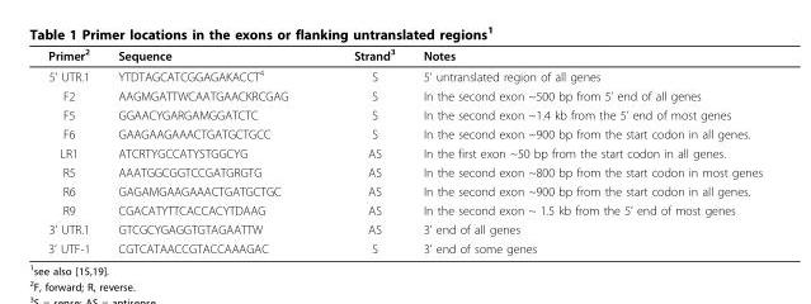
<table><thead><tr><td>Primer<sup>2</sup></td><td>Sequence</td><td>Strand<sup>3</sup></td><td>Notes</td></tr></thead><tbody><tr><td>5’ UTR.1</td><td>YTDTAGCATCGGAGAKACCT<sup>4</sup></td><td>S</td><td>5’ untranslated region of all genes</td></tr><tr><td>F2</td><td>AAGMGATTWCAATGAACKRCGAG</td><td>S</td><td>In the second exon ~500 bp from 5’ end of all genes</td></tr><tr><td>F5</td><td>GGAACYGARGAMGGATCTC</td><td>S</td><td>In the second exon ~1.4 kb from the 5’ end of most genes</td></tr><tr><td>F6</td><td>GAAGAAGAAACTGATGCTGCC</td><td>S</td><td>In the second exon ~900 bp from the start codon in all genes.</td></tr><tr><td>LR1</td><td>ATCRTYGCCATYSTGGCYG</td><td>AS</td><td>In the first exon ~50 bp from the start codon in all genes.</td></tr><tr><td>R5</td><td>AAATGGCGGTCCGATGRGTG</td><td>AS</td><td>In the second exon ~800 bp from the start codon in most genes</td></tr><tr><td>R6</td><td>GAGAMGAAGAAACTGATGCTGC</td><td>AS</td><td>In the second exon ~900 bp from the start codon in all genes.</td></tr><tr><td>R9</td><td>CGACATYTTCACCACYTDAAG</td><td>AS</td><td>In the second exon ~ 1.5 kb from the 5’ end of most genes</td></tr><tr><td>3’ UTR.1</td><td>GTCGCYGAGGTGTAGAATTW</td><td>AS</td><td>3’ end of all genes</td></tr><tr><td>3’ UTF-1</td><td>CGTCATAACCGTACCAAAGAC</td><td>S</td><td>3’ end of some genes</td></tr></tbody></table>